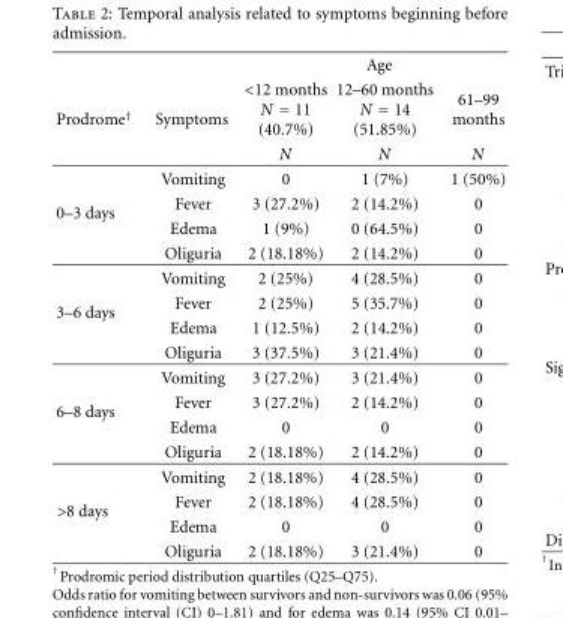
<table><thead><tr><td rowspan="3">Prodrome<sup>†</sup></td><td rowspan="3">Symptoms</td><td colspan="3">Age</td></tr><tr><td rowspan="2">&lt;12 months N = 11 (40.7%) N</td><td rowspan="2">12–60 months N = 14 (51.85%) N</td><td rowspan="2">61–99 months N</td></tr><tr></tr></thead><tbody><tr><td rowspan="4">0–3 days</td><td>Vomiting</td><td>0</td><td>1 (7%)</td><td>1 (50%)</td></tr><tr><td>Fever</td><td>3 (27.2%)</td><td>2 (14.2%)</td><td>0</td></tr><tr><td>Edema</td><td>1 (9%)</td><td>0 (64.5%)</td><td>0</td></tr><tr><td>Oliguria</td><td>2 (18.18%)</td><td>2 (14.2%)</td><td>0</td></tr><tr><td rowspan="4">3–6 days</td><td>Vomiting</td><td>2 (25%)</td><td>4 (28.5%)</td><td>0</td></tr><tr><td>Fever</td><td>2 (25%)</td><td>5 (35.7%)</td><td>0</td></tr><tr><td>Edema</td><td>1 (12.5%)</td><td>2 (14.2%)</td><td>0</td></tr><tr><td>Oliguria</td><td>3 (37.5%)</td><td>3 (21.4%)</td><td>0</td></tr><tr><td rowspan="4">6–8 days</td><td>Vomiting</td><td>3 (27.2%)</td><td>3 (21.4%)</td><td>0</td></tr><tr><td>Fever</td><td>3 (27.2%)</td><td>2 (14.2%)</td><td>0</td></tr><tr><td>Edema</td><td>0</td><td>0</td><td>0</td></tr><tr><td>Oliguria</td><td>2 (18.18%)</td><td>2 (14.2%)</td><td>0</td></tr><tr><td rowspan="4">&gt;8 days</td><td>Vomiting</td><td>2 (18.18%)</td><td>4 (28.5%)</td><td>0</td></tr><tr><td>Fever</td><td>2 (18.18%)</td><td>4 (28.5%)</td><td>0</td></tr><tr><td>Edema</td><td>0</td><td>0</td><td>0</td></tr><tr><td>Oliguria</td><td>2 (18.18%)</td><td>3 (21.4%)</td><td>0</td></tr></tbody></table>